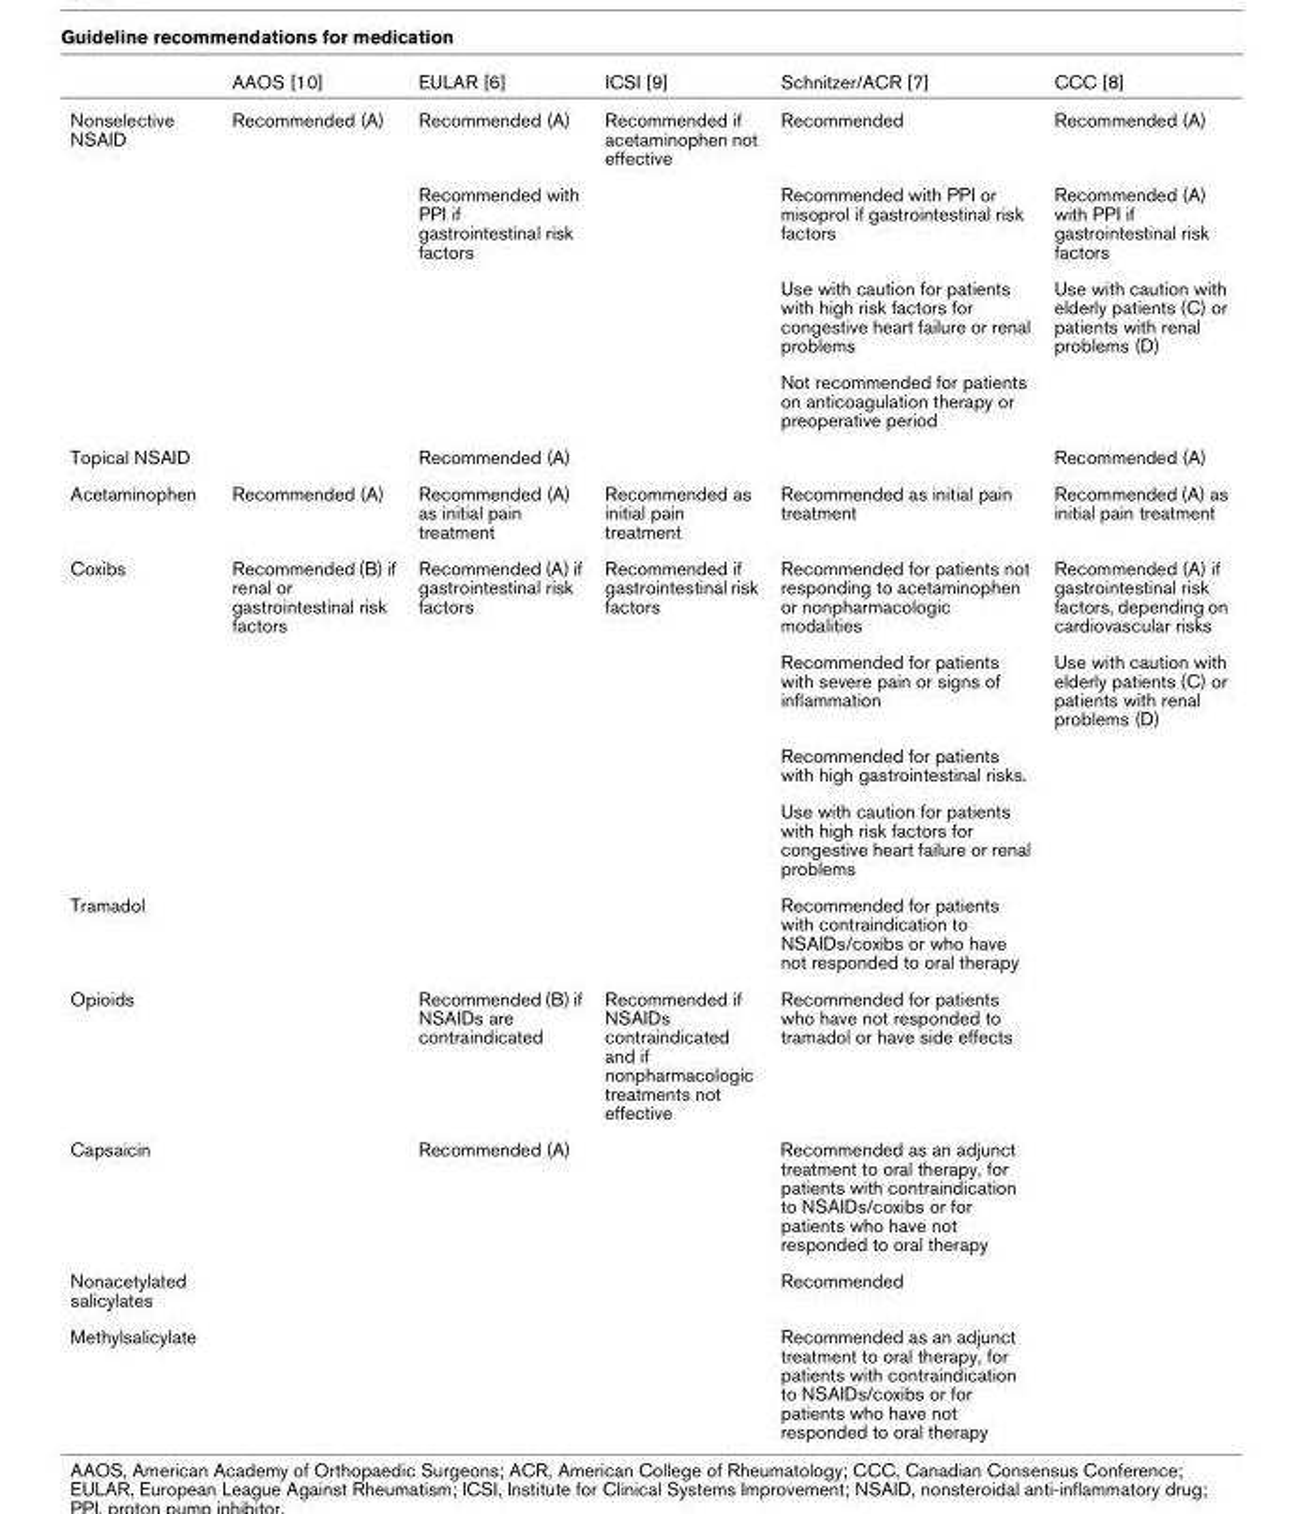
<table><thead><tr><td></td><td>AAOS [10]</td><td>EULAR [6]</td><td>ICSI [9]</td><td>Schnitzer/ACR [7]</td><td>CCC [8]</td></tr></thead><tbody><tr><td rowspan="4">Nonselective NSAID</td><td>Recommended (A)</td><td>Recommended (A)</td><td>Recommended if acetaminophen not effective</td><td>Recommended</td><td>Recommended (A)</td></tr><tr><td></td><td>Recommended with PPI if gastrointestinal risk factors</td><td></td><td>Recommended with PPI or misoprol if gastrointestinal risk factors</td><td>Recommended (A) with PPI if gastrointestinal risk factors</td></tr><tr><td></td><td></td><td></td><td>Use with caution for patients with high risk factors for congestive heart failure or renal problems</td><td>Use with caution with elderly patients (C) or patients with renal problems (D)</td></tr><tr><td></td><td></td><td></td><td>Not recommended for patients on anticoagulation therapy or preoperative period</td><td></td></tr><tr><td>Topical NSAID</td><td></td><td>Recommended (A)</td><td></td><td></td><td>Recommended (A)</td></tr><tr><td>Acetaminophen</td><td>Recommended (A)</td><td>Recommended (A) as initial pain treatment</td><td>Recommended as initial pain treatment</td><td>Recommended as initial pain treatment</td><td>Recommended (A) as initial pain treatment</td></tr><tr><td rowspan="4">Coxibs</td><td>Recommended (B) if renal or gastrointestinal risk factors</td><td>Recommended (A) if gastrointestinal risk factors</td><td>Recommended if gastrointestinal risk factors</td><td>Recommended for patients not responding to acetaminophen or nonpharmacologic modalities</td><td>Recommended (A) if gastrointestinal risk factors, depending on cardiovascular risks</td></tr><tr><td></td><td></td><td></td><td>Recommended for patients with severe pain or signs of inflammation</td><td>Use with caution with elderly patients (C) or patients with renal problems (D)</td></tr><tr><td></td><td></td><td></td><td>Recommended for patients with high gastrointestinal risks.</td><td></td></tr><tr><td></td><td></td><td></td><td>Use with caution for patients with high risk factors for congestive heart failure or renal problems</td><td></td></tr><tr><td>Tramadol</td><td></td><td></td><td></td><td>Recommended for patients with contraindication to NSAIDs/coxibs or who have not responded to oral therapy</td><td></td></tr><tr><td>Opioids</td><td></td><td>Recommended (B) if NSAIDs are contraindicated</td><td>Recommended if NSAIDs contraindicated and if nonpharmacologic treatments not effective</td><td>Recommended for patients who have not responded to tramadol or have side effects</td><td></td></tr><tr><td>Capsaicin</td><td></td><td>Recommended (A)</td><td></td><td>Recommended as an adjunct treatment to oral therapy, for patients with contraindication to NSAIDs/coxibs or for patients who have not responded to oral therapy</td><td></td></tr><tr><td>Nonacetylated salicylates</td><td></td><td></td><td></td><td>Recommended</td><td></td></tr><tr><td>Methylsalicylate</td><td></td><td></td><td></td><td>Recommended as an adjunct treatment to oral therapy, for patients with contraindication to NSAIDs/coxibs or for patients who have not responded to oral therapy</td><td></td></tr></tbody></table>